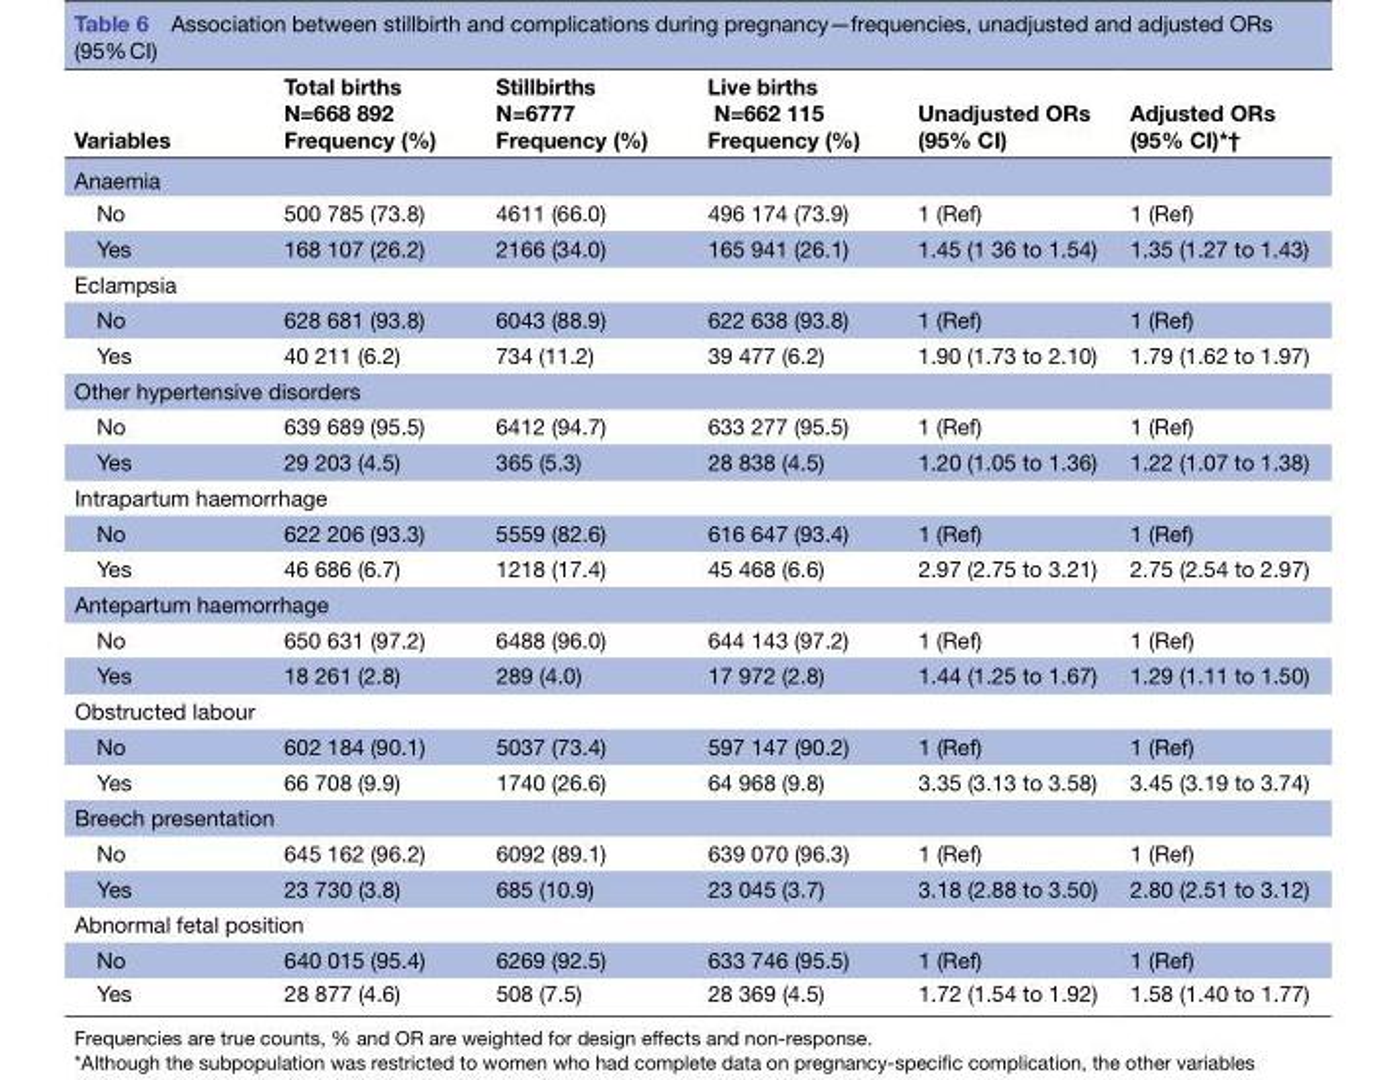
<table><thead><tr><td>Variables</td><td>Total births N=668 892 Frequency (%)</td><td>Stillbirths N=6777 Frequency (%)</td><td>Live births N=662 115 Frequency (%)</td><td>Unadjusted ORs (95% CI)</td><td>Adjusted ORs (95% CI)*†</td></tr></thead><tbody><tr><td colspan="6">Anaemia</td></tr><tr><td>No</td><td>500 785 (73.8)</td><td>4611 (66.0)</td><td>496 174 (73.9)</td><td>1 (Ref)</td><td>1 (Ref)</td></tr><tr><td>Yes</td><td>168 107 (26.2)</td><td>2166 (34.0)</td><td>165 941 (26.1)</td><td>1.45 (1 36 to 1.54)</td><td>1.35 (1.27 to 1.43)</td></tr><tr><td colspan="6">Eclampsia</td></tr><tr><td>No</td><td>628 681 (93.8)</td><td>6043 (88.9)</td><td>622 638 (93.8)</td><td>1 (Ref)</td><td>1 (Ref)</td></tr><tr><td>Yes</td><td>40 211 (6.2)</td><td>734 (11.2)</td><td>39 477 (6.2)</td><td>1.90 (1.73 to 2.10)</td><td>1.79 (1.62 to 1.97)</td></tr><tr><td colspan="6">Other hypertensive disorders</td></tr><tr><td>No</td><td>639 689 (95.5)</td><td>6412 (94.7)</td><td>633 277 (95.5)</td><td>1 (Ref)</td><td>1 (Ref)</td></tr><tr><td>Yes</td><td>29 203 (4.5)</td><td>365 (5.3)</td><td>28 838 (4.5)</td><td>1.20 (1.05 to 1.36)</td><td>1.22 (1.07 to 1.38)</td></tr><tr><td colspan="6">Intrapartum haemorrhage</td></tr><tr><td>No</td><td>622 206 (93.3)</td><td>5559 (82.6)</td><td>616 647 (93.4)</td><td>1 (Ref)</td><td>1 (Ref)</td></tr><tr><td>Yes</td><td>46 686 (6.7)</td><td>1218 (17.4)</td><td>45 468 (6.6)</td><td>2.97 (2.75 to 3.21)</td><td>2.75 (2.54 to 2.97)</td></tr><tr><td colspan="6">Antepartum haemorrhage</td></tr><tr><td>No</td><td>650 631 (97.2)</td><td>6488 (96.0)</td><td>644 143 (97.2)</td><td>1 (Ref)</td><td>1 (Ref)</td></tr><tr><td>Yes</td><td>18 261 (2.8)</td><td>289 (4.0)</td><td>17 972 (2.8)</td><td>1.44 (1.25 to 1.67)</td><td>1.29 (1.11 to 1.50)</td></tr><tr><td colspan="6">Obstructed labour</td></tr><tr><td>No</td><td>602 184 (90.1)</td><td>5037 (73.4)</td><td>597 147 (90.2)</td><td>1 (Ref)</td><td>1 (Ref)</td></tr><tr><td>Yes</td><td>66 708 (9.9)</td><td>1740 (26.6)</td><td>64 968 (9.8)</td><td>3.35 (3.13 to 3.58)</td><td>3.45 (3.19 to 3.74)</td></tr><tr><td colspan="6">Breech presentation</td></tr><tr><td>No</td><td>645 162 (96.2)</td><td>6092 (89.1)</td><td>639 070 (96.3)</td><td>1 (Ref)</td><td>1 (Ref)</td></tr><tr><td>Yes</td><td>23 730 (3.8)</td><td>685 (10.9)</td><td>23 045 (3.7)</td><td>3.18 (2.88 to 3.50)</td><td>2.80 (2.51 to 3.12)</td></tr><tr><td colspan="6">Abnormal fetal position</td></tr><tr><td>No</td><td>640 015 (95.4)</td><td>6269 (92.5)</td><td>633 746 (95.5)</td><td>1 (Ref)</td><td>1 (Ref)</td></tr><tr><td>Yes</td><td>28 877 (4.6)</td><td>508 (7.5)</td><td>28 369 (4.5)</td><td>1.72 (1.54 to 1.92)</td><td>1.58 (1.40 to 1.77)</td></tr></tbody></table>